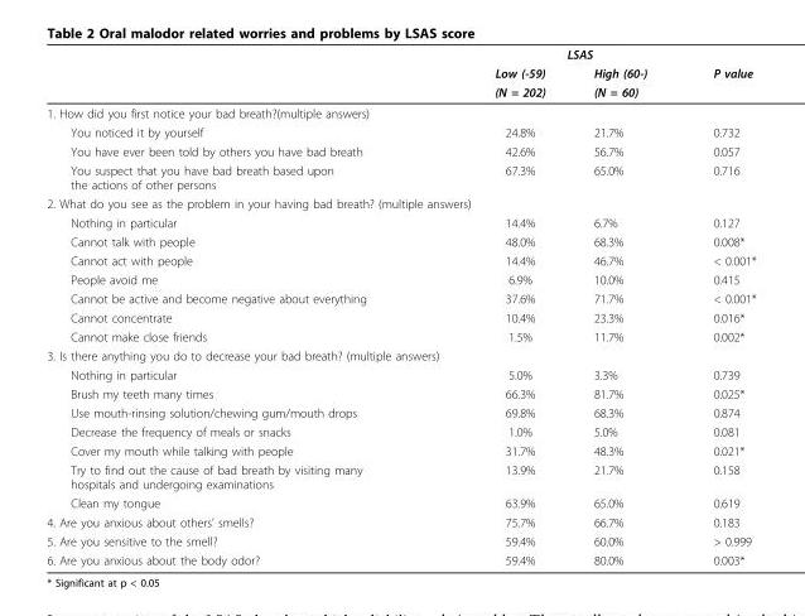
<table><thead><tr><td rowspan="3"></td><td colspan="2">LSAS</td><td rowspan="3">P value</td></tr><tr><td rowspan="2">Low (-59) (N = 202)</td><td rowspan="2">High (60-) (N = 60)</td></tr><tr></tr></thead><tbody><tr><td colspan="4">1. How did you first notice your bad breath?(multiple answers)</td></tr><tr><td>You noticed it by yourself</td><td>24.8%</td><td>21.7%</td><td>0.732</td></tr><tr><td>You have ever been told by others you have bad breath</td><td>42.6%</td><td>56.7%</td><td>0.057</td></tr><tr><td>You suspect that you have bad breath based upon the actions of other persons</td><td>67.3%</td><td>65.0%</td><td>0.716</td></tr><tr><td colspan="4">2. What do you see as the problem in your having bad breath? (multiple answers)</td></tr><tr><td>Nothing in particular</td><td>14.4%</td><td>6.7%</td><td>0.127</td></tr><tr><td>Cannot talk with people</td><td>48.0%</td><td>68.3%</td><td>0.008*</td></tr><tr><td>Cannot act with people</td><td>14.4%</td><td>46.7%</td><td>&lt; 0.001*</td></tr><tr><td>People avoid me</td><td>6.9%</td><td>10.0%</td><td>0.415</td></tr><tr><td>Cannot be active and become negative about everything</td><td>37.6%</td><td>71.7%</td><td>&lt; 0.001*</td></tr><tr><td>Cannot concentrate</td><td>10.4%</td><td>23.3%</td><td>0.016*</td></tr><tr><td>Cannot make close friends</td><td>1.5%</td><td>11.7%</td><td>0.002*</td></tr><tr><td colspan="4">3. Is there anything you do to decrease your bad breath? (multiple answers)</td></tr><tr><td>Nothing in particular</td><td>5.0%</td><td>3.3%</td><td>0.739</td></tr><tr><td>Brush my teeth many times</td><td>66.3%</td><td>81.7%</td><td>0.025*</td></tr><tr><td>Use mouth-rinsing solution/chewing gum/mouth drops</td><td>69.8%</td><td>68.3%</td><td>0.874</td></tr><tr><td>Decrease the frequency of meals or snacks</td><td>1.0%</td><td>5.0%</td><td>0.081</td></tr><tr><td>Cover my mouth while talking with people</td><td>31.7%</td><td>48.3%</td><td>0.021*</td></tr><tr><td>Try to find out the cause of bad breath by visiting many hospitals and undergoing examinations</td><td>13.9%</td><td>21.7%</td><td>0.158</td></tr><tr><td>Clean my tongue</td><td>63.9%</td><td>65.0%</td><td>0.619</td></tr><tr><td>4. Are you anxious about others’ smells?</td><td>75.7%</td><td>66.7%</td><td>0.183</td></tr><tr><td>5. Are you sensitive to the smell?</td><td>59.4%</td><td>60.0%</td><td>&gt; 0.999</td></tr><tr><td>6. Are you anxious about the body odor?</td><td>59.4%</td><td>80.0%</td><td>0.003*</td></tr></tbody></table>